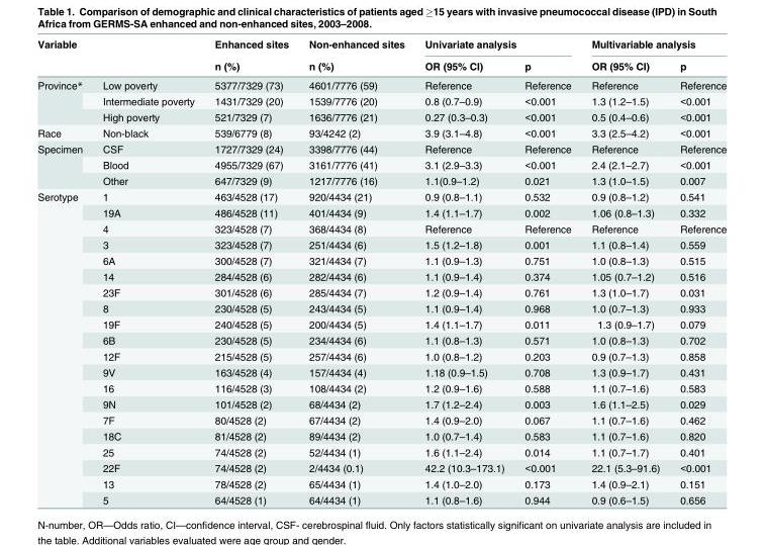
<table><thead><tr><td rowspan="2">Variable</td><td rowspan="2"></td><td rowspan="2">Enhanced sites n (%)</td><td rowspan="2">Non-enhanced sites n (%)</td><td colspan="2">Univariate analysis</td><td colspan="2">Multivariable analysis</td></tr><tr><td>OR (95% CI)</td><td>p</td><td>OR (95% CI)</td><td>p</td></tr></thead><tbody><tr><td rowspan="3">Province*</td><td>Low poverty</td><td>5377/7329 (73)</td><td>4601/7776 (59)</td><td>Reference</td><td>Reference</td><td>Reference</td><td>Reference</td></tr><tr><td>Intermediate poverty</td><td>1431/7329 (20)</td><td>1539/7776 (20)</td><td>0.8 (0.7–0.9)</td><td>&lt;0.001</td><td>1.3 (1.2–1.5)</td><td>&lt;0.001</td></tr><tr><td>High poverty</td><td>521/7329 (7)</td><td>1636/7776 (21)</td><td>0.27 (0.3–0.3)</td><td>&lt;0.001</td><td>0.5 (0.4–0.6)</td><td>&lt;0.001</td></tr><tr><td>Race</td><td>Non-black</td><td>539/6779 (8)</td><td>93/4242 (2)</td><td>3.9 (3.1–4.8)</td><td>&lt;0.001</td><td>3.3 (2.5–4.2)</td><td>&lt;0.001</td></tr><tr><td rowspan="3">Specimen</td><td>CSF</td><td>1727/7329 (24)</td><td>3398/7776 (44)</td><td>Reference</td><td>Reference</td><td>Reference</td><td>Reference</td></tr><tr><td>Blood</td><td>4955/7329 (67)</td><td>3161/7776 (41)</td><td>3.1 (2.9–3.3)</td><td>&lt;0.001</td><td>2.4 (2.1–2.7)</td><td>&lt;0.001</td></tr><tr><td>Other</td><td>647/7329 (9)</td><td>1217/7776 (16)</td><td>1.1(0.9–1.2)</td><td>0.021</td><td>1.3 (1.0–1.5)</td><td>0.007</td></tr><tr><td rowspan="20">Serotype</td><td>1</td><td>463/4528 (17)</td><td>920/4434 (21)</td><td>0.9 (0.8–1.1)</td><td>0.532</td><td>0.9 (0.8–1.2)</td><td>0.541</td></tr><tr><td>19A</td><td>486/4528 (11)</td><td>401/4434 (9)</td><td>1.4 (1.1–1.7)</td><td>0.002</td><td>1.06 (0.8–1.3)</td><td>0.332</td></tr><tr><td>4</td><td>323/4528 (7)</td><td>368/4434 (8)</td><td>Reference</td><td>Reference</td><td>Reference</td><td>Reference</td></tr><tr><td>3</td><td>323/4528 (7)</td><td>251/4434 (6)</td><td>1.5 (1.2–1.8)</td><td>0.001</td><td>1.1 (0.8–1.4)</td><td>0.559</td></tr><tr><td>6A</td><td>300/4528 (7)</td><td>321/4434 (7)</td><td>1.1 (0.9–1.3)</td><td>0.751</td><td>1.0 (0.8–1.3)</td><td>0.515</td></tr><tr><td>14</td><td>284/4528 (6)</td><td>282/4434 (6)</td><td>1.1 (0.9–1.4)</td><td>0.374</td><td>1.05 (0.7–1.2)</td><td>0.516</td></tr><tr><td>23F</td><td>301/4528 (6)</td><td>285/4434 (7)</td><td>1.2 (0.9–1.4)</td><td>0.761</td><td>1.3 (1.0–1.7)</td><td>0.031</td></tr><tr><td>8</td><td>230/4528 (5)</td><td>243/4434 (5)</td><td>1.1 (0.9–1.4)</td><td>0.968</td><td>1.0 (0.7–1.3)</td><td>0.933</td></tr><tr><td>19F</td><td>240/4528 (5)</td><td>200/4434 (5)</td><td>1.4 (1.1–1.7)</td><td>0.011</td><td>1.3 (0.9–1.7)</td><td>0.079</td></tr><tr><td>6B</td><td>230/4528 (5)</td><td>234/4434 (6)</td><td>1.1 (0.8–1.3)</td><td>0.571</td><td>1.0 (0.8–1.3)</td><td>0.702</td></tr><tr><td>12F</td><td>215/4528 (5)</td><td>257/4434 (6)</td><td>1.0 (0.8–1.2)</td><td>0.203</td><td>0.9 (0.7–1.3)</td><td>0.858</td></tr><tr><td>9V</td><td>163/4528 (4)</td><td>157/4434 (4)</td><td>1.18 (0.9–1.5)</td><td>0.708</td><td>1.3 (0.9–1.7)</td><td>0.431</td></tr><tr><td>16</td><td>116/4528 (3)</td><td>108/4434 (2)</td><td>1.2 (0.9–1.6)</td><td>0.588</td><td>1.1 (0.7–1.6)</td><td>0.583</td></tr><tr><td>9N</td><td>101/4528 (2)</td><td>68/4434 (2)</td><td>1.7 (1.2–2.4)</td><td>0.003</td><td>1.6 (1.1–2.5)</td><td>0.029</td></tr><tr><td>7F</td><td>80/4528 (2)</td><td>67/4434 (2)</td><td>1.4 (0.9–2.0)</td><td>0.067</td><td>1.1 (0.7–1.6)</td><td>0.462</td></tr><tr><td>18C</td><td>81/4528 (2)</td><td>89/4434 (2)</td><td>1.0 (0.7–1.4)</td><td>0.583</td><td>1.1 (0.7–1.6)</td><td>0.820</td></tr><tr><td>25</td><td>74/4528 (2)</td><td>52/4434 (1)</td><td>1.6 (1.1–2.4)</td><td>0.014</td><td>1.1 (0.7–1.7)</td><td>0.401</td></tr><tr><td>22F</td><td>74/4528 (2)</td><td>2/4434 (0.1)</td><td>42.2 (10.3–173.1)</td><td>&lt;0.001</td><td>22.1 (5.3–91.6)</td><td>&lt;0.001</td></tr><tr><td>13</td><td>78/4528 (2)</td><td>65/4434 (1)</td><td>1.4 (1.0–2.0)</td><td>0.173</td><td>1.4 (0.9–2.1)</td><td>0.151</td></tr><tr><td>5</td><td>64/4528 (1)</td><td>64/4434 (1)</td><td>1.1 (0.8–1.6)</td><td>0.944</td><td>0.9 (0.6–1.5)</td><td>0.656</td></tr></tbody></table>